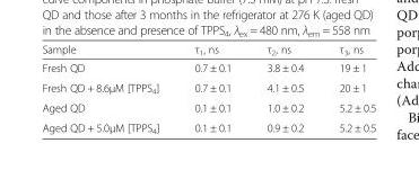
<table><thead><tr><td>Sample</td><td>τ<sub>1</sub>, ns</td><td>τ<sub>2</sub>, ns</td><td>τ<sub>3</sub>, ns</td></tr></thead><tbody><tr><td>Fresh QD</td><td>0.7 ± 0.1</td><td>3.8 ± 0.4</td><td>19 ± 1</td></tr><tr><td>Fresh QD + 8.6μМ [TPPS<sub>4</sub>]</td><td>0.7 ± 0.1</td><td>4.1 ± 0.5</td><td>20 ± 1</td></tr><tr><td>Aged QD</td><td>0.1 ± 0.1</td><td>1.0 ± 0.2</td><td>5.2 ± 0.5</td></tr><tr><td>Aged QD + 5.0μМ [TPPS<sub>4</sub>]</td><td>0.1 ± 0.1</td><td>0.9 ± 0.2</td><td>5.2 ± 0.5</td></tr></tbody></table>